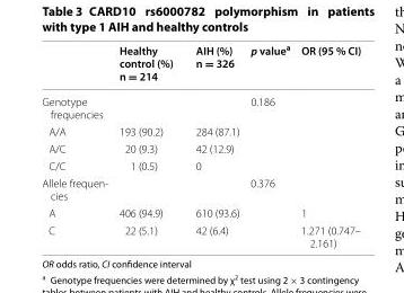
<table><thead><tr><td></td><td>Healthy control (%) n = 214</td><td>AIH (%) n = 326</td><td>p value<sup>a</sup></td><td>OR (95 % CI)</td></tr></thead><tbody><tr><td>Genotype frequencies</td><td></td><td></td><td>0.186</td><td></td></tr><tr><td>A/A</td><td>193 (90.2)</td><td>284 (87.1)</td><td></td><td></td></tr><tr><td>A/C</td><td>20 (9.3)</td><td>42 (12.9)</td><td></td><td></td></tr><tr><td>C/C</td><td>1 (0.5)</td><td>0</td><td></td><td></td></tr><tr><td>Allele frequen- cies</td><td></td><td></td><td>0.376</td><td></td></tr><tr><td>A</td><td>406 (94.9)</td><td>610 (93.6)</td><td></td><td>1</td></tr><tr><td>C</td><td>22 (5.1)</td><td>42 (6.4)</td><td></td><td>1.271 (0.747– 2.161)</td></tr></tbody></table>